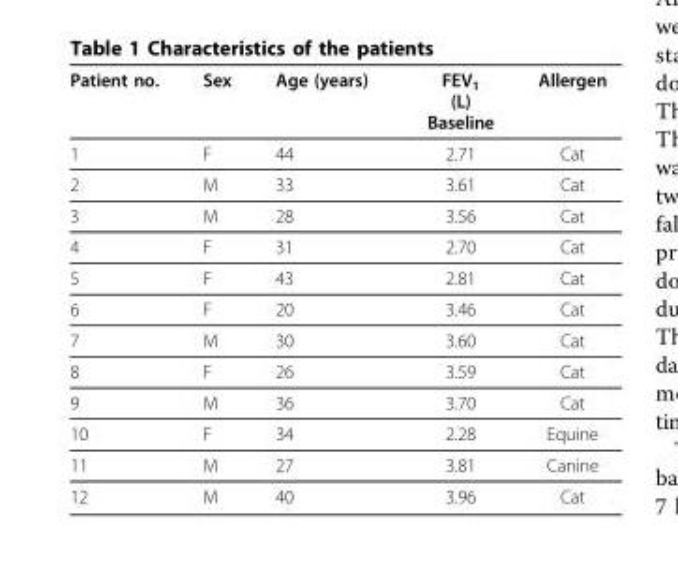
<table><thead><tr><td>Patient no.</td><td>Sex</td><td>Age (years)</td><td>FEV<sub>1</sub> (L) Baseline</td><td>Allergen</td></tr></thead><tbody><tr><td>1</td><td>F</td><td>44</td><td>2.71</td><td>Cat</td></tr><tr><td>2</td><td>M</td><td>33</td><td>3.61</td><td>Cat</td></tr><tr><td>3</td><td>M</td><td>28</td><td>3.56</td><td>Cat</td></tr><tr><td>4</td><td>F</td><td>31</td><td>2.70</td><td>Cat</td></tr><tr><td>5</td><td>F</td><td>43</td><td>2.81</td><td>Cat</td></tr><tr><td>6</td><td>F</td><td>20</td><td>3.46</td><td>Cat</td></tr><tr><td>7</td><td>M</td><td>30</td><td>3.60</td><td>Cat</td></tr><tr><td>8</td><td>F</td><td>26</td><td>3.59</td><td>Cat</td></tr><tr><td>9</td><td>M</td><td>36</td><td>3.70</td><td>Cat</td></tr><tr><td>10</td><td>F</td><td>34</td><td>2.28</td><td>Equine</td></tr><tr><td>11</td><td>M</td><td>27</td><td>3.81</td><td>Canine</td></tr><tr><td>12</td><td>M</td><td>40</td><td>3.96</td><td>Cat</td></tr></tbody></table>